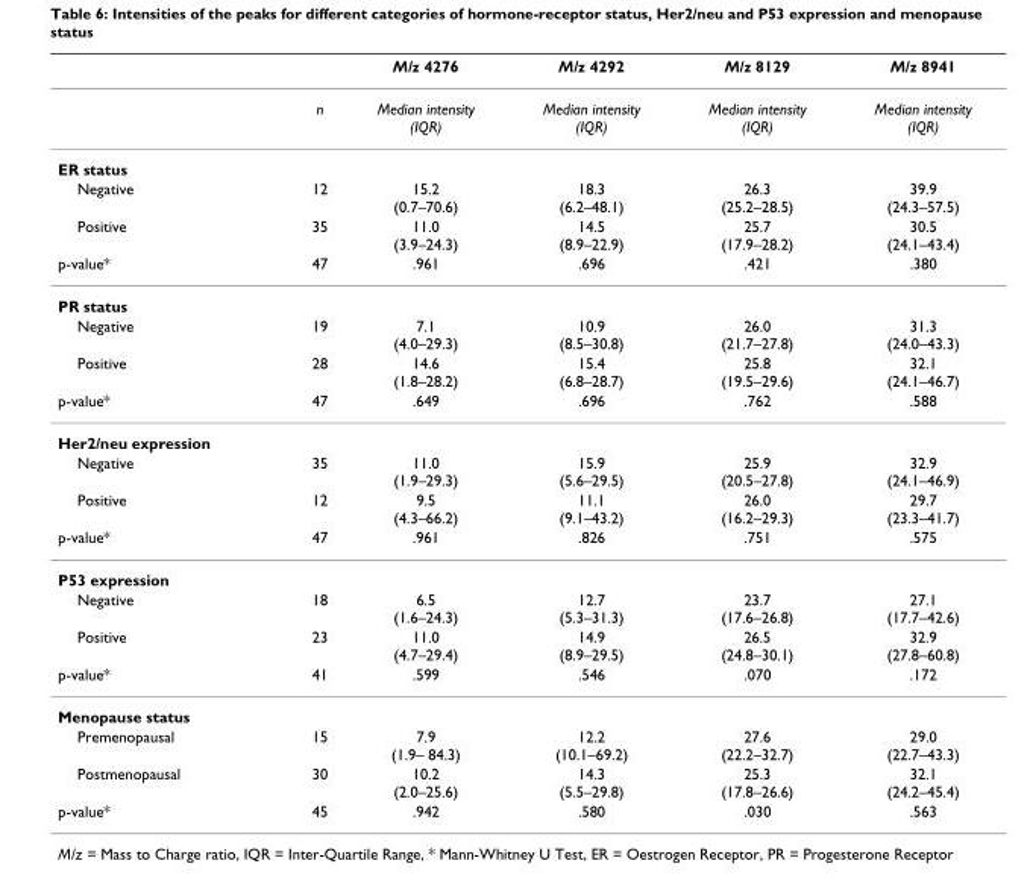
<table><thead><tr><td></td><td></td><td>M/z 4276</td><td>M/z 4292</td><td>M/z 8129</td><td>M/z 8941</td></tr></thead><tbody><tr><td></td><td>n</td><td>Median intensity (IQR)</td><td>Median intensity (IQR)</td><td>Median intensity (IQR)</td><td>Median intensity (IQR)</td></tr><tr><td colspan="6">ER status</td></tr><tr><td>Negative</td><td>12</td><td>15.2 (0.7–70.6)</td><td>18.3 (6.2–48.1)</td><td>26.3 (25.2–28.5)</td><td>39.9 (24.3–57.5)</td></tr><tr><td>Positive</td><td>35</td><td>11.0 (3.9–24.3)</td><td>14.5 (8.9–22.9)</td><td>25.7 (17.9–28.2)</td><td>30.5 (24.1–43.4)</td></tr><tr><td>p-value*</td><td>47</td><td>.961</td><td>.696</td><td>.421</td><td>.380</td></tr><tr><td colspan="6">PR status</td></tr><tr><td>Negative</td><td>19</td><td>7.1 (4.0–29.3)</td><td>10.9 (8.5–30.8)</td><td>26.0 (21.7–27.8)</td><td>31.3 (24.0–43.3)</td></tr><tr><td>Positive</td><td>28</td><td>14.6 (1.8–28.2)</td><td>15.4 (6.8–28.7)</td><td>25.8 (19.5–29.6)</td><td>32.1 (24.1–46.7)</td></tr><tr><td>p-value*</td><td>47</td><td>.649</td><td>.696</td><td>.762</td><td>.588</td></tr><tr><td colspan="6">Her2/neu expression</td></tr><tr><td>Negative</td><td>35</td><td>11.0 (1.9–29.3)</td><td>15.9 (5.6–29.5)</td><td>25.9 (20.5–27.8)</td><td>32.9 (24.1–46.9)</td></tr><tr><td>Positive</td><td>12</td><td>9.5 (4.3–66.2)</td><td>11.1 (9.1–43.2)</td><td>26.0 (16.2–29.3)</td><td>29.7 (23.3–41.7)</td></tr><tr><td>p-value*</td><td>47</td><td>.961</td><td>.826</td><td>.751</td><td>.575</td></tr><tr><td colspan="6">P53 expression</td></tr><tr><td>Negative</td><td>18</td><td>6.5 (1.6–24.3)</td><td>12.7 (5.3–31.3)</td><td>23.7 (17.6–26.8)</td><td>27.1 (17.7–42.6)</td></tr><tr><td>Positive</td><td>23</td><td>11.0 (4.7–29.4)</td><td>14.9 (8.9–29.5)</td><td>26.5 (24.8–30.1)</td><td>32.9 (27.8–60.8)</td></tr><tr><td>p-value*</td><td>41</td><td>.599</td><td>.546</td><td>.070</td><td>.172</td></tr><tr><td colspan="6">Menopause status</td></tr><tr><td>Premenopausal</td><td>15</td><td>7.9 (1.9– 84.3)</td><td>12.2 (10.1–69.2)</td><td>27.6 (22.2–32.7)</td><td>29.0 (22.7–43.3)</td></tr><tr><td>Postmenopausal</td><td>30</td><td>10.2 (2.0–25.6)</td><td>14.3 (5.5–29.8)</td><td>25.3 (17.8–26.6)</td><td>32.1 (24.2–45.4)</td></tr><tr><td>p-value*</td><td>45</td><td>.942</td><td>.580</td><td>.030</td><td>.563</td></tr></tbody></table>